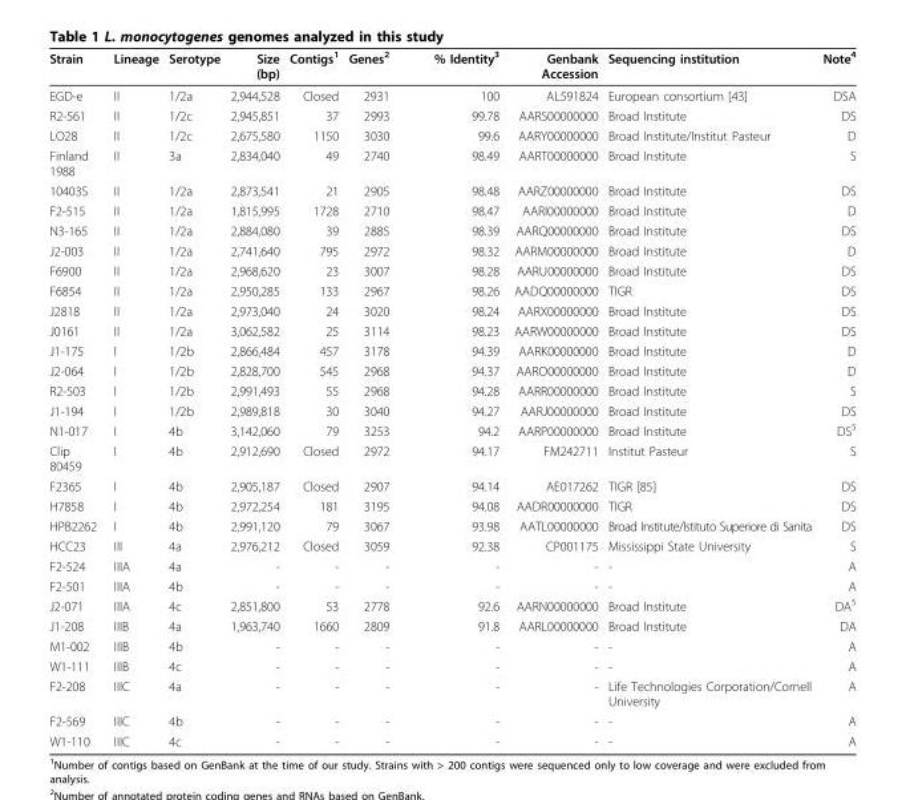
<table><thead><tr><td>Strain</td><td>Lineage</td><td>Serotype</td><td>Size (bp)</td><td>Contigs<sup>1</sup></td><td>Genes<sup>2</sup></td><td>% Identity<sup>3</sup></td><td>Genbank Accession</td><td>Sequencing institution</td><td>Note<sup>4</sup></td></tr></thead><tbody><tr><td>EGD-e</td><td>II</td><td>1/2a</td><td>2,944,528</td><td>Closed</td><td>2931</td><td>100</td><td>AL591824</td><td>European consortium [43]</td><td>DSA</td></tr><tr><td>R2-561</td><td>II</td><td>1/2c</td><td>2,945,851</td><td>37</td><td>2993</td><td>99.78</td><td>AARS00000000</td><td>Broad Institute</td><td>DS</td></tr><tr><td>LO28</td><td>II</td><td>1/2c</td><td>2,675,580</td><td>1150</td><td>3030</td><td>99.6</td><td>AARY00000000</td><td>Broad Institute/Institut Pasteur</td><td>D</td></tr><tr><td>Finland 1988</td><td>II</td><td>3a</td><td>2,834,040</td><td>49</td><td>2740</td><td>98.49</td><td>AART00000000</td><td>Broad Institute</td><td>S</td></tr><tr><td>10403S</td><td>II</td><td>1/2a</td><td>2,873,541</td><td>21</td><td>2905</td><td>98.48</td><td>AARZ00000000</td><td>Broad Institute</td><td>DS</td></tr><tr><td>F2-515</td><td>II</td><td>1/2a</td><td>1,815,995</td><td>1728</td><td>2710</td><td>98.47</td><td>AARI00000000</td><td>Broad Institute</td><td>D</td></tr><tr><td>N3-165</td><td>II</td><td>1/2a</td><td>2,884,080</td><td>39</td><td>2885</td><td>98.39</td><td>AARQ00000000</td><td>Broad Institute</td><td>DS</td></tr><tr><td>J2-003</td><td>II</td><td>1/2a</td><td>2,741,640</td><td>795</td><td>2972</td><td>98.32</td><td>AARM00000000</td><td>Broad Institute</td><td>D</td></tr><tr><td>F6900</td><td>II</td><td>1/2a</td><td>2,968,620</td><td>23</td><td>3007</td><td>98.28</td><td>AARU00000000</td><td>Broad Institute</td><td>DS</td></tr><tr><td>F6854</td><td>II</td><td>1/2a</td><td>2,950,285</td><td>133</td><td>2967</td><td>98.26</td><td>AADQ00000000</td><td>TIGR</td><td>DS</td></tr><tr><td>J2818</td><td>II</td><td>1/2a</td><td>2,973,040</td><td>24</td><td>3020</td><td>98.24</td><td>AARX00000000</td><td>Broad Institute</td><td>DS</td></tr><tr><td>J0161</td><td>II</td><td>1/2a</td><td>3,062,582</td><td>25</td><td>3114</td><td>98.23</td><td>AARW00000000</td><td>Broad Institute</td><td>DS</td></tr><tr><td>J1-175</td><td>I</td><td>1/2b</td><td>2,866,484</td><td>457</td><td>3178</td><td>94.39</td><td>AARK00000000</td><td>Broad Institute</td><td>D</td></tr><tr><td>J2-064</td><td>I</td><td>1/2b</td><td>2,828,700</td><td>545</td><td>2968</td><td>94.37</td><td>AARO00000000</td><td>Broad Institute</td><td>D</td></tr><tr><td>R2-503</td><td>I</td><td>1/2b</td><td>2,991,493</td><td>55</td><td>2968</td><td>94.28</td><td>AARR00000000</td><td>Broad Institute</td><td>S</td></tr><tr><td>J1-194</td><td>I</td><td>1/2b</td><td>2,989,818</td><td>30</td><td>3040</td><td>94.27</td><td>AARJ00000000</td><td>Broad Institute</td><td>DS</td></tr><tr><td>N1-017</td><td>I</td><td>4b</td><td>3,142,060</td><td>79</td><td>3253</td><td>94.2</td><td>AARP00000000</td><td>Broad Institute</td><td>DS<sup>5</sup></td></tr><tr><td>Clip 80459</td><td>I</td><td>4b</td><td>2,912,690</td><td>Closed</td><td>2972</td><td>94.17</td><td>FM242711</td><td>Institut Pasteur</td><td>S</td></tr><tr><td>F2365</td><td>I</td><td>4b</td><td>2,905,187</td><td>Closed</td><td>2907</td><td>94.14</td><td>AE017262</td><td>TIGR [85]</td><td>DS</td></tr><tr><td>H7858</td><td>I</td><td>4b</td><td>2,972,254</td><td>181</td><td>3195</td><td>94.08</td><td>AADR00000000</td><td>TIGR</td><td>DS</td></tr><tr><td>HPB2262</td><td>I</td><td>4b</td><td>2,991,120</td><td>79</td><td>3067</td><td>93.98</td><td>AATL00000000</td><td>Broad Institute/Istituto Superiore di Sanita</td><td>DS</td></tr><tr><td>HCC23</td><td>III</td><td>4a</td><td>2,976,212</td><td>Closed</td><td>3059</td><td>92.38</td><td>CP001175</td><td>Mississippi State University</td><td>S</td></tr><tr><td>F2-524</td><td>IIIA</td><td>4a</td><td>-</td><td>-</td><td>-</td><td>-</td><td>-</td><td>-</td><td>A</td></tr><tr><td>F2-501</td><td>IIIA</td><td>4b</td><td>-</td><td>-</td><td>-</td><td>-</td><td>-</td><td>-</td><td>A</td></tr><tr><td>J2-071</td><td>IIIA</td><td>4c</td><td>2,851,800</td><td>53</td><td>2778</td><td>92.6</td><td>AARN00000000</td><td>Broad Institute</td><td>DA<sup>5</sup></td></tr><tr><td>J1-208</td><td>IIIB</td><td>4a</td><td>1,963,740</td><td>1660</td><td>2809</td><td>91.8</td><td>AARL00000000</td><td>Broad Institute</td><td>DA</td></tr><tr><td>M1-002</td><td>IIIB</td><td>4b</td><td>-</td><td>-</td><td>-</td><td>-</td><td>-</td><td>-</td><td>A</td></tr><tr><td>W1-111</td><td>IIIB</td><td>4c</td><td>-</td><td>-</td><td>-</td><td>-</td><td>-</td><td>-</td><td>A</td></tr><tr><td>F2-208</td><td>IIIC</td><td>4a</td><td>-</td><td>-</td><td>-</td><td>-</td><td>-</td><td>Life Technologies Corporation/Cornell University</td><td>A</td></tr><tr><td>F2-569</td><td>IIIC</td><td>4b</td><td>-</td><td>-</td><td>-</td><td>-</td><td>-</td><td>-</td><td>A</td></tr><tr><td>W1-110</td><td>IIIC</td><td>4c</td><td>-</td><td>-</td><td>-</td><td>-</td><td>-</td><td>-</td><td>A</td></tr></tbody></table>